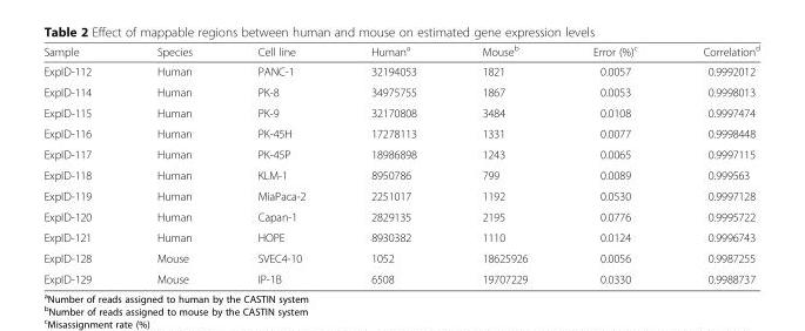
<table><thead><tr><td>Sample</td><td>Species</td><td>Cell line</td><td>Human<sup>a</sup></td><td>Mouse<sup>b</sup></td><td>Error (%)<sup>c</sup></td><td>Correlation<sup>d</sup></td></tr></thead><tbody><tr><td>ExpID-112</td><td>Human</td><td>PANC-1</td><td>32194053</td><td>1821</td><td>0.0057</td><td>0.9992012</td></tr><tr><td>ExpID-114</td><td>Human</td><td>PK-8</td><td>34975755</td><td>1867</td><td>0.0053</td><td>0.9998013</td></tr><tr><td>ExpID-115</td><td>Human</td><td>PK-9</td><td>32170808</td><td>3484</td><td>0.0108</td><td>0.9997474</td></tr><tr><td>ExpID-116</td><td>Human</td><td>PK-45H</td><td>17278113</td><td>1331</td><td>0.0077</td><td>0.9998448</td></tr><tr><td>ExpID-117</td><td>Human</td><td>PK-45P</td><td>18986898</td><td>1243</td><td>0.0065</td><td>0.9997115</td></tr><tr><td>ExpID-118</td><td>Human</td><td>KLM-1</td><td>8950786</td><td>799</td><td>0.0089</td><td>0.999563</td></tr><tr><td>ExpID-119</td><td>Human</td><td>MiaPaca-2</td><td>2251017</td><td>1192</td><td>0.0530</td><td>0.9997128</td></tr><tr><td>ExpID-120</td><td>Human</td><td>Capan-1</td><td>2829135</td><td>2195</td><td>0.0776</td><td>0.9995722</td></tr><tr><td>ExpID-121</td><td>Human</td><td>HOPE</td><td>8930382</td><td>1110</td><td>0.0124</td><td>0.9996743</td></tr><tr><td>ExpID-128</td><td>Mouse</td><td>SVEC4-10</td><td>1052</td><td>18625926</td><td>0.0056</td><td>0.9987255</td></tr><tr><td>ExpID-129</td><td>Mouse</td><td>IP-1B</td><td>6508</td><td>19707229</td><td>0.0330</td><td>0.9988737</td></tr></tbody></table>